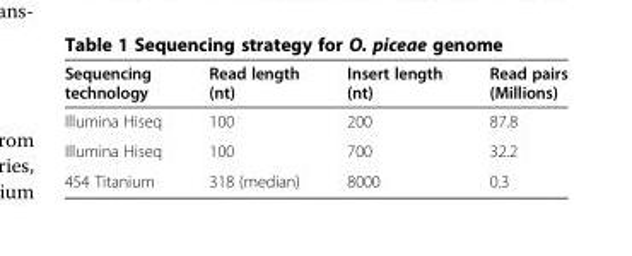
<table><thead><tr><td>Sequencing technology</td><td>Read length (nt)</td><td>Insert length (nt)</td><td>Read pairs (Millions)</td></tr></thead><tbody><tr><td>Illumina Hiseq</td><td>100</td><td>200</td><td>87.8</td></tr><tr><td>Illumina Hiseq</td><td>100</td><td>700</td><td>32.2</td></tr><tr><td>454 Titanium</td><td>318 (median)</td><td>8000</td><td>0.3</td></tr></tbody></table>